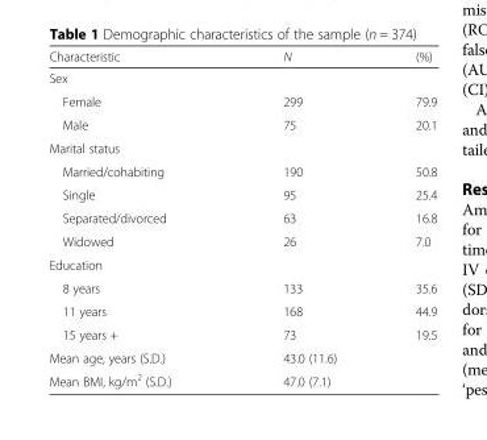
<table><thead><tr><td>Characteristic</td><td>N</td><td>(%)</td></tr></thead><tbody><tr><td colspan="3">Sex</td></tr><tr><td>Female</td><td>299</td><td>79.9</td></tr><tr><td>Male</td><td>75</td><td>20.1</td></tr><tr><td colspan="3">Marital status</td></tr><tr><td>Married/cohabiting</td><td>190</td><td>50.8</td></tr><tr><td>Single</td><td>95</td><td>25.4</td></tr><tr><td>Separated/divorced</td><td>63</td><td>16.8</td></tr><tr><td>Widowed</td><td>26</td><td>7.0</td></tr><tr><td colspan="3">Education</td></tr><tr><td>8 years</td><td>133</td><td>35.6</td></tr><tr><td>11 years</td><td>168</td><td>44.9</td></tr><tr><td>15 years +</td><td>73</td><td>19.5</td></tr><tr><td>Mean age, years (S.D.)</td><td colspan="2">43.0 (11.6)</td></tr><tr><td>Mean BMI, kg/m<sup>2</sup> (S.D.)</td><td colspan="2">47.0 (7.1)</td></tr></tbody></table>